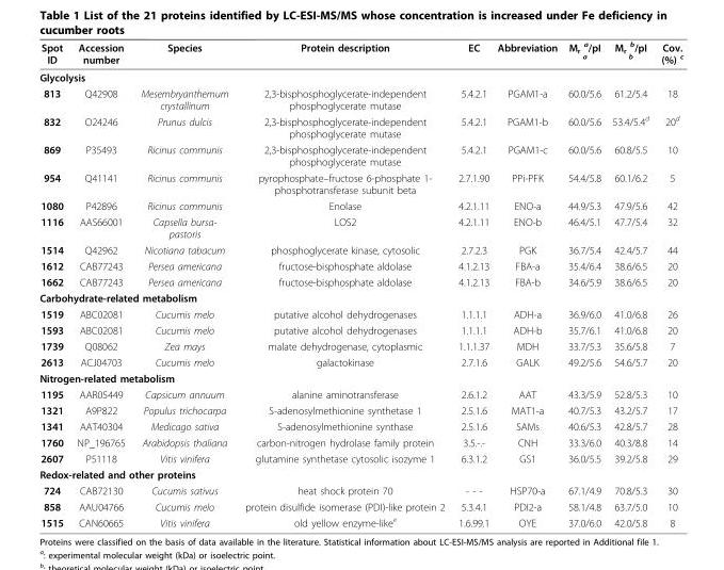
<table><thead><tr><td>Spot ID</td><td>Accession number</td><td>Species</td><td>Protein description</td><td>EC</td><td>Abbreviation</td><td>M<sub>r</sub> <sup>a</sup>/pI <sup>a</sup></td><td>M<sub>r</sub> <sup>b</sup>/pI <sup>b</sup></td><td>Cov. (%) <sup>c</sup></td></tr></thead><tbody><tr><td colspan="9">Glycolysis</td></tr><tr><td>813</td><td>Q42908</td><td>Mesembryanthemum crystallinum</td><td>2,3-bisphosphoglycerate-independent phosphoglycerate mutase</td><td>5.4.2.1</td><td>PGAM1-a</td><td>60.0/5.6</td><td>61.2/5.4</td><td>18</td></tr><tr><td>832</td><td>O24246</td><td>Prunus dulcis</td><td>2,3-bisphosphoglycerate-independent phosphoglycerate mutase</td><td>5.4.2.1</td><td>PGAM1-b</td><td>60.0/5.6</td><td>53.4/5.4<sup>d</sup></td><td>20<sup>d</sup></td></tr><tr><td>869</td><td>P35493</td><td>Ricinus communis</td><td>2,3-bisphosphoglycerate-independent phosphoglycerate mutase</td><td>5.4.2.1</td><td>PGAM1-c</td><td>60.0/5.6</td><td>60.8/5.5</td><td>10</td></tr><tr><td>954</td><td>Q41141</td><td>Ricinus communis</td><td>pyrophosphate–fructose 6-phosphate 1- phosphotransferase subunit beta</td><td>2.7.1.90</td><td>PPi-PFK</td><td>54.4/5.8</td><td>60.1/6.2</td><td>5</td></tr><tr><td>1080</td><td>P42896</td><td>Ricinus communis</td><td>Enolase</td><td>4.2.1.11</td><td>ENO-a</td><td>44.9/5.3</td><td>47.9/5.6</td><td>42</td></tr><tr><td>1116</td><td>AAS66001</td><td>Capsella bursa- pastoris</td><td>LOS2</td><td>4.2.1.11</td><td>ENO-b</td><td>46.4/5.1</td><td>47.7/5.4</td><td>32</td></tr><tr><td>1514</td><td>Q42962</td><td>Nicotiana tabacum</td><td>phosphoglycerate kinase, cytosolic</td><td>2.7.2.3</td><td>PGK</td><td>36.7/5.4</td><td>42.4/5.7</td><td>44</td></tr><tr><td>1612</td><td>CAB77243</td><td>Persea americana</td><td>fructose-bisphosphate aldolase</td><td>4.1.2.13</td><td>FBA-a</td><td>35.4/6.4</td><td>38.6/6.5</td><td>20</td></tr><tr><td>1662</td><td>CAB77243</td><td>Persea americana</td><td>fructose-bisphosphate aldolase</td><td>4.1.2.13</td><td>FBA-b</td><td>34.6/5.9</td><td>38.6/6.5</td><td>20</td></tr><tr><td colspan="9">Carbohydrate-related metabolism</td></tr><tr><td>1519</td><td>ABC02081</td><td>Cucumis melo</td><td>putative alcohol dehydrogenases</td><td>1.1.1.1</td><td>ADH-a</td><td>36.9/6.0</td><td>41.0/6.8</td><td>26</td></tr><tr><td>1593</td><td>ABC02081</td><td>Cucumis melo</td><td>putative alcohol dehydrogenases</td><td>1.1.1.1</td><td>ADH-b</td><td>35.7/6.1</td><td>41.0/6.8</td><td>20</td></tr><tr><td>1739</td><td>Q08062</td><td>Zea mays</td><td>malate dehydrogenase, cytoplasmic</td><td>1.1.1.37</td><td>MDH</td><td>33.7/5.3</td><td>35.6/5.8</td><td>7</td></tr><tr><td>2613</td><td>ACJ04703</td><td>Cucumis melo</td><td>galactokinase</td><td>2.7.1.6</td><td>GALK</td><td>49.2/5.6</td><td>54.6/5.7</td><td>20</td></tr><tr><td colspan="9">Nitrogen-related metabolism</td></tr><tr><td>1195</td><td>AAR05449</td><td>Capsicum annuum</td><td>alanine aminotransferase</td><td>2.6.1.2</td><td>AAT</td><td>43.3/5.9</td><td>52.8/5.3</td><td>10</td></tr><tr><td>1321</td><td>A9P822</td><td>Populus trichocarpa</td><td>S-adenosylmethionine synthetase 1</td><td>2.5.1.6</td><td>MAT1-a</td><td>40.7/5.3</td><td>43.2/5.7</td><td>17</td></tr><tr><td>1341</td><td>AAT40304</td><td>Medicago sativa</td><td>S-adenosylmethionine synthase</td><td>2.5.1.6</td><td>SAMs</td><td>40.6/5.3</td><td>42.8/5.7</td><td>28</td></tr><tr><td>1760</td><td>NP_196765</td><td>Arabidopsis thaliana</td><td>carbon-nitrogen hydrolase family protein</td><td>3.5.-.-</td><td>CNH</td><td>33.3/6.0</td><td>40.3/8.8</td><td>14</td></tr><tr><td>2607</td><td>P51118</td><td>Vitis vinifera</td><td>glutamine synthetase cytosolic isozyme 1</td><td>6.3.1.2</td><td>GS1</td><td>36.0/5.5</td><td>39.2/5.8</td><td>29</td></tr><tr><td colspan="9">Redox-related and other proteins</td></tr><tr><td>724</td><td>CAB72130</td><td>Cucumis sativus</td><td>heat shock protein 70</td><td>- - -</td><td>HSP70-a</td><td>67.1/4.9</td><td>70.8/5.3</td><td>30</td></tr><tr><td>858</td><td>AAU04766</td><td>Cucumis melo</td><td>protein disulfide isomerase (PDI)-like protein 2</td><td>5.3.4.1</td><td>PDI2-a</td><td>58.1/4.8</td><td>63.7/5.0</td><td>10</td></tr><tr><td>1515</td><td>CAN60665</td><td>Vitis vinifera</td><td>old yellow enzyme-like<sup>e</sup></td><td>1.6.99.1</td><td>OYE</td><td>37.0/6.0</td><td>42.0/5.8</td><td>8</td></tr></tbody></table>